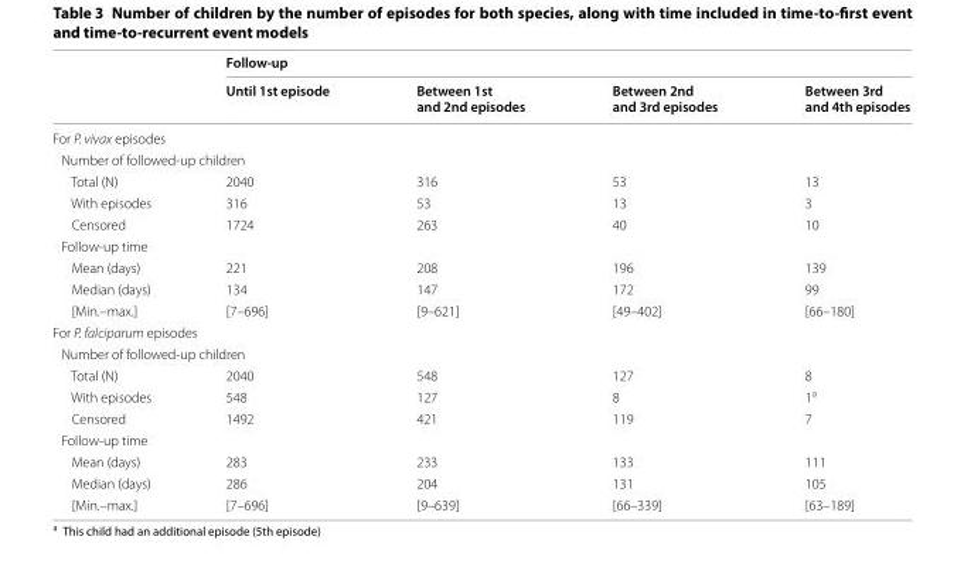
<table><thead><tr><td rowspan="2"></td><td colspan="4">Follow‑up</td></tr><tr><td>Until 1st episode</td><td>Between 1st and 2nd episodes</td><td>Between 2nd and 3rd episodes</td><td>Between 3rd and 4th episodes</td></tr></thead><tbody><tr><td colspan="5">For P. vivax episodes</td></tr><tr><td colspan="5">Number of followed‑up children</td></tr><tr><td>Total (N)</td><td>2040</td><td>316</td><td>53</td><td>13</td></tr><tr><td>With episodes</td><td>316</td><td>53</td><td>13</td><td>3</td></tr><tr><td>Censored</td><td>1724</td><td>263</td><td>40</td><td>10</td></tr><tr><td colspan="5">Follow‑up time</td></tr><tr><td>Mean (days)</td><td>221</td><td>208</td><td>196</td><td>139</td></tr><tr><td>Median (days)</td><td>134</td><td>147</td><td>172</td><td>99</td></tr><tr><td>[Min.–max.]</td><td>[7–696]</td><td>[9–621]</td><td>[49–402]</td><td>[66–180]</td></tr><tr><td colspan="5">For P. falciparum episodes</td></tr><tr><td colspan="5">Number of followed‑up children</td></tr><tr><td>Total (N)</td><td>2040</td><td>548</td><td>127</td><td>8</td></tr><tr><td>With episodes</td><td>548</td><td>127</td><td>8</td><td>1<sup>a</sup></td></tr><tr><td>Censored</td><td>1492</td><td>421</td><td>119</td><td>7</td></tr><tr><td colspan="5">Follow‑up time</td></tr><tr><td>Mean (days)</td><td>283</td><td>233</td><td>133</td><td>111</td></tr><tr><td>Median (days)</td><td>286</td><td>204</td><td>131</td><td>105</td></tr><tr><td>[Min.–max.]</td><td>[7–696]</td><td>[9–639]</td><td>[66–339]</td><td>[63–189]</td></tr></tbody></table>